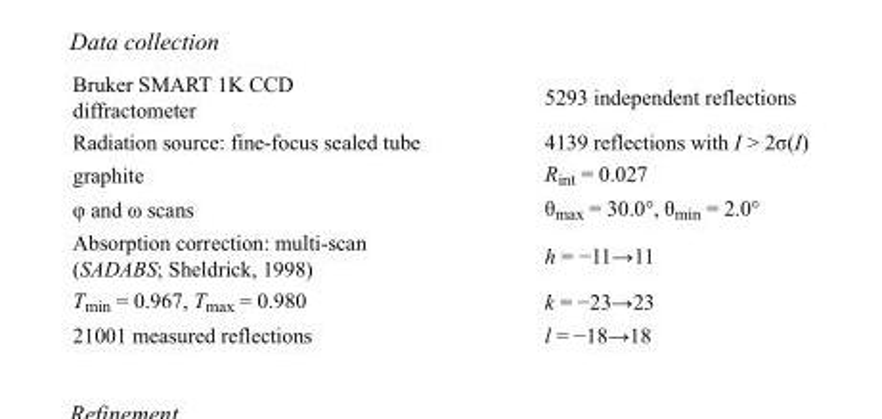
<table><tbody><tr><td>Bruker SMART 1K CCD diffractometer</td><td>5293 independent reflections</td></tr><tr><td>Radiation source: fine-focus sealed tube</td><td>4139 reflections with I &gt; 2σ(I)</td></tr><tr><td>graphite</td><td>R<sub>int</sub> = 0.027</td></tr><tr><td>φ and ω scans</td><td>θ<sub>max</sub> = 30.0°, θ<sub>min</sub> = 2.0°</td></tr><tr><td>Absorption correction: multi-scan (SADABS; Sheldrick, 1998)</td><td>h = −11→11</td></tr><tr><td>T<sub>min</sub> = 0.967, T<sub>max</sub> = 0.980</td><td>k = −23→23</td></tr><tr><td>21001 measured reflections</td><td>l = −18→18</td></tr></tbody></table>